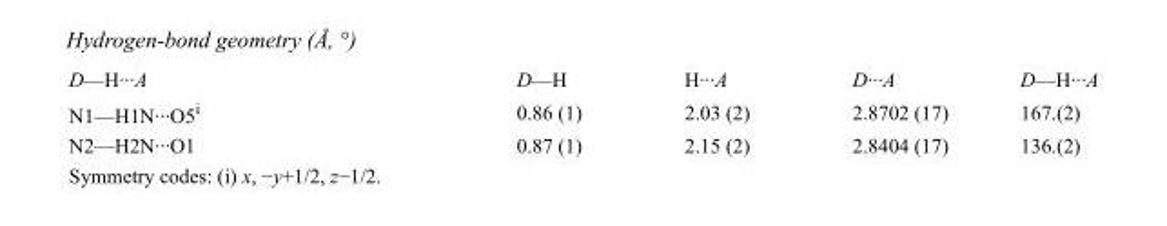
<table><tbody><tr><td>D—H···A</td><td>D—H</td><td>H···A</td><td>D···A</td><td>D—H···A</td></tr><tr><td>N1—H1N···O5<sup>i</sup></td><td>0.86 (1)</td><td>2.03 (2)</td><td>2.8702 (17)</td><td>167.(2)</td></tr><tr><td>N2—H2N···O1</td><td>0.87 (1)</td><td>2.15 (2)</td><td>2.8404 (17)</td><td>136.(2)</td></tr></tbody></table>